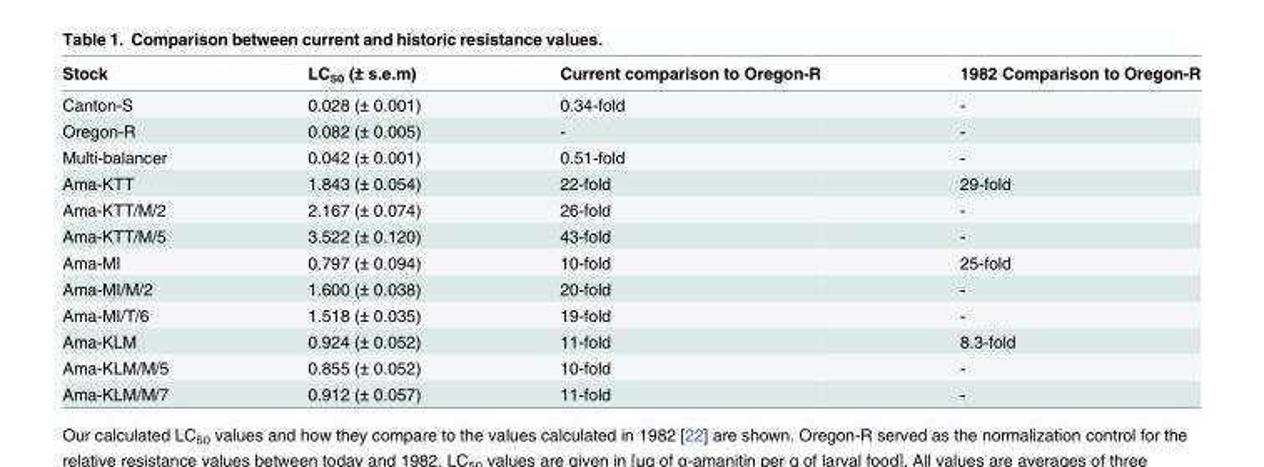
<table><thead><tr><td>Stock</td><td>LC<sub>50</sub> (± s.e.m)</td><td>Current comparison to Oregon-R</td><td>1982 Comparison to Oregon-R</td></tr></thead><tbody><tr><td>Canton-S</td><td>0.028 (± 0.001)</td><td>0.34-fold</td><td>-</td></tr><tr><td>Oregon-R</td><td>0.082 (± 0.005)</td><td>-</td><td>-</td></tr><tr><td>Multi-balancer</td><td>0.042 (± 0.001)</td><td>0.51-fold</td><td>-</td></tr><tr><td>Ama-KTT</td><td>1.843 (± 0.054)</td><td>22-fold</td><td>29-fold</td></tr><tr><td>Ama-KTT/M/2</td><td>2.167 (± 0.074)</td><td>26-fold</td><td>-</td></tr><tr><td>Ama-KTT/M/5</td><td>3.522 (± 0.120)</td><td>43-fold</td><td>-</td></tr><tr><td>Ama-MI</td><td>0.797 (± 0.094)</td><td>10-fold</td><td>25-fold</td></tr><tr><td>Ama-MI/M/2</td><td>1.600 (± 0.038)</td><td>20-fold</td><td>-</td></tr><tr><td>Ama-MI/T/6</td><td>1.518 (± 0.035)</td><td>19-fold</td><td>-</td></tr><tr><td>Ama-KLM</td><td>0.924 (± 0.052)</td><td>11-fold</td><td>8.3-fold</td></tr><tr><td>Ama-KLM/M/5</td><td>0.855 (± 0.052)</td><td>10-fold</td><td>-</td></tr><tr><td>Ama-KLM/M/7</td><td>0.912 (± 0.057)</td><td>11-fold</td><td>-</td></tr></tbody></table>